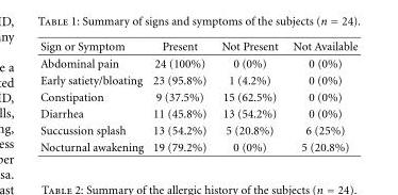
<table><thead><tr><td>Sign or Symptom</td><td>Present</td><td>Not Present</td><td>Not Available</td></tr></thead><tbody><tr><td>Abdominal pain</td><td>24 (100%)</td><td>0 (0%)</td><td>0 (0%)</td></tr><tr><td>Early satiety/bloating</td><td>23 (95.8%)</td><td>1 (4.2%)</td><td>0 (0%)</td></tr><tr><td>Constipation</td><td>9 (37.5%)</td><td>15 (62.5%)</td><td>0 (0%)</td></tr><tr><td>Diarrhea</td><td>11 (45.8%)</td><td>13 (54.2%)</td><td>0 (0%)</td></tr><tr><td>Succussion splash</td><td>13 (54.2%)</td><td>5 (20.8%)</td><td>6 (25%)</td></tr><tr><td>Nocturnal awakening</td><td>19 (79.2%)</td><td>0 (0%)</td><td>5 (20.8%)</td></tr></tbody></table>